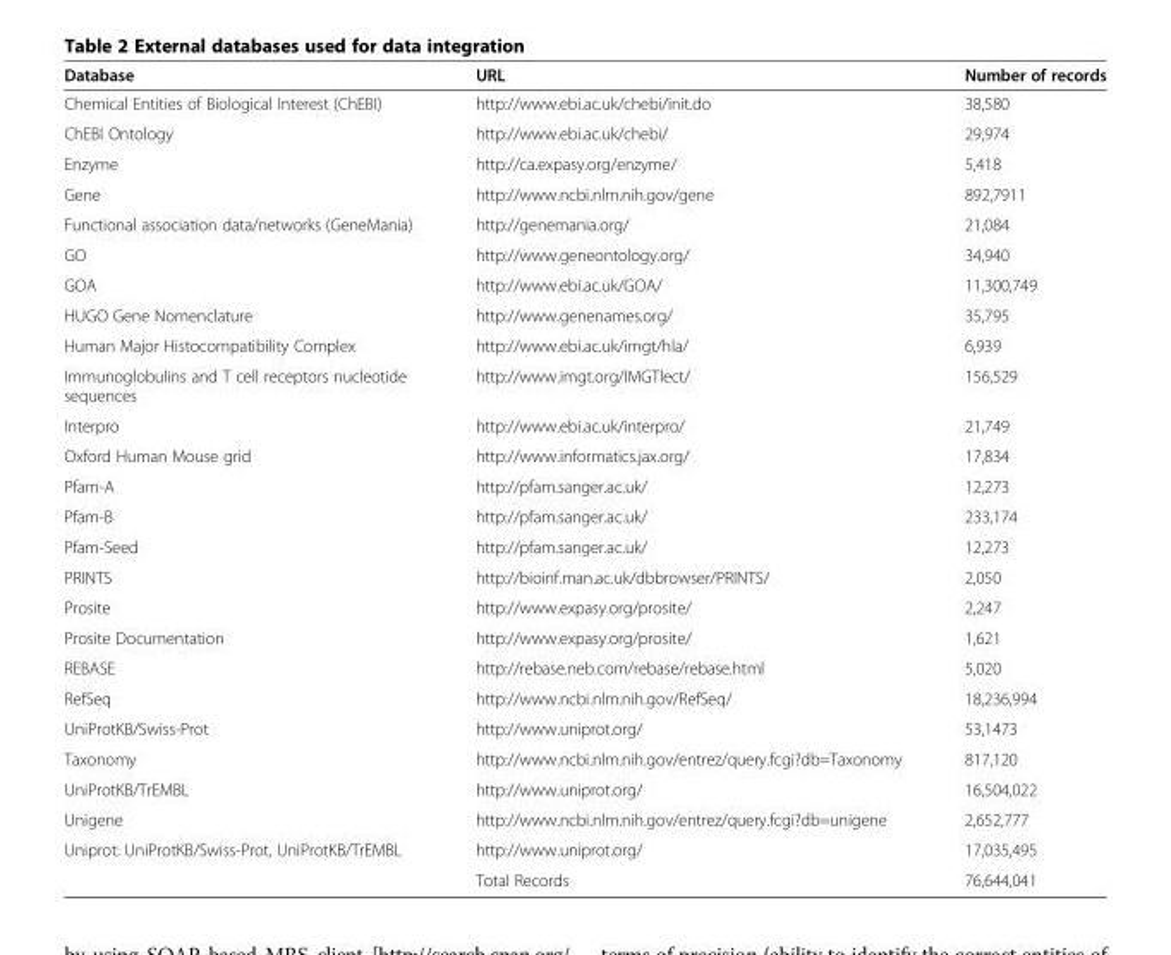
<table><thead><tr><td>Database</td><td>URL</td><td>Number of records</td></tr></thead><tbody><tr><td>Chemical Entities of Biological Interest (ChEBI)</td><td>http://www.ebi.ac.uk/chebi/init.do</td><td>38,580</td></tr><tr><td>ChEBI Ontology</td><td>http://www.ebi.ac.uk/chebi/</td><td>29,974</td></tr><tr><td>Enzyme</td><td>http://ca.expasy.org/enzyme/</td><td>5,418</td></tr><tr><td>Gene</td><td>http://www.ncbi.nlm.nih.gov/gene</td><td>892,7911</td></tr><tr><td>Functional association data/networks (GeneMania)</td><td>http://genemania.org/</td><td>21,084</td></tr><tr><td>GO</td><td>http://www.geneontology.org/</td><td>34,940</td></tr><tr><td>GOA</td><td>http://www.ebi.ac.uk/GOA/</td><td>11,300,749</td></tr><tr><td>HUGO Gene Nomenclature</td><td>http://www.genenames.org/</td><td>35,795</td></tr><tr><td>Human Major Histocompatibility Complex</td><td>http://www.ebi.ac.uk/imgt/hla/</td><td>6,939</td></tr><tr><td>Immunoglobulins and T cell receptors nucleotide sequences</td><td>http://www.imgt.org/IMGTlect/</td><td>156,529</td></tr><tr><td>Interpro</td><td>http://www.ebi.ac.uk/interpro/</td><td>21,749</td></tr><tr><td>Oxford Human Mouse grid</td><td>http://www.informatics.jax.org/</td><td>17,834</td></tr><tr><td>Pfam-A</td><td>http://pfam.sanger.ac.uk/</td><td>12,273</td></tr><tr><td>Pfam-B</td><td>http://pfam.sanger.ac.uk/</td><td>233,174</td></tr><tr><td>Pfam-Seed</td><td>http://pfam.sanger.ac.uk/</td><td>12,273</td></tr><tr><td>PRINTS</td><td>http://bioinf.man.ac.uk/dbbrowser/PRINTS/</td><td>2,050</td></tr><tr><td>Prosite</td><td>http://www.expasy.org/prosite/</td><td>2,247</td></tr><tr><td>Prosite Documentation</td><td>http://www.expasy.org/prosite/</td><td>1,621</td></tr><tr><td>REBASE</td><td>http://rebase.neb.com/rebase/rebase.html</td><td>5,020</td></tr><tr><td>RefSeq</td><td>http://www.ncbi.nlm.nih.gov/RefSeq/</td><td>18,236,994</td></tr><tr><td>UniProtKB/Swiss-Prot</td><td>http://www.uniprot.org/</td><td>53,1473</td></tr><tr><td>Taxonomy</td><td>http://www.ncbi.nlm.nih.gov/entrez/query.fcgi?db=Taxonomy</td><td>817,120</td></tr><tr><td>UniProtKB/TrEMBL</td><td>http://www.uniprot.org/</td><td>16,504,022</td></tr><tr><td>Unigene</td><td>http://www.ncbi.nlm.nih.gov/entrez/query.fcgi?db=unigene</td><td>2,652,777</td></tr><tr><td rowspan="2">Uniprot: UniProtKB/Swiss-Prot, UniProtKB/TrEMBL</td><td>http://www.uniprot.org/</td><td>17,035,495</td></tr><tr><td>Total Records</td><td>76,644,041</td></tr></tbody></table>